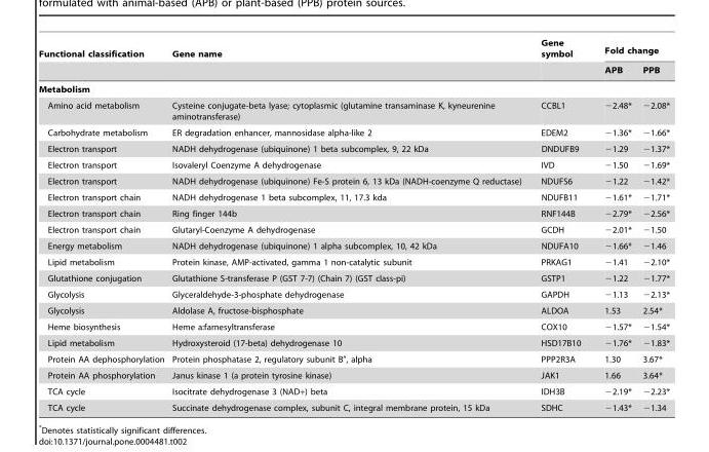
<table><thead><tr><td rowspan="2">Functional classification</td><td rowspan="2">Gene name</td><td rowspan="2">Gene symbol</td><td colspan="2">Fold change</td></tr><tr><td>APB</td><td>PPB</td></tr></thead><tbody><tr><td colspan="5">Metabolism</td></tr><tr><td>Amino acid metabolism</td><td>Cysteine conjugate-beta lyase; cytoplasmic (glutamine transaminase K, kyneurenine aminotransferase)</td><td>CCBL1</td><td>−2.48*</td><td>−2.08*</td></tr><tr><td>Carbohydrate metabolism</td><td>ER degradation enhancer, mannosidase alpha-like 2</td><td>EDEM2</td><td>−1.36*</td><td>−1.66*</td></tr><tr><td>Electron transport</td><td>NADH dehydrogenase (ubiquinone) 1 beta subcomplex, 9, 22 kDa</td><td>DNDUFB9</td><td>−1.29</td><td>−1.37*</td></tr><tr><td>Electron transport</td><td>Isovaleryl Coenzyme A dehydrogenase</td><td>IVD</td><td>−1.50</td><td>−1.69*</td></tr><tr><td>Electron transport</td><td>NADH dehydrogenase (ubiquinone) Fe-S protein 6, 13 kDa (NADH-coenzyme Q reductase)</td><td>NDUFS6</td><td>−1.22</td><td>−1.42*</td></tr><tr><td>Electron transport chain</td><td>NADH dehydrogenase 1 beta subcomplex, 11, 17.3 kda</td><td>NDUFB11</td><td>−1.61*</td><td>−1.71*</td></tr><tr><td>Electron transport chain</td><td>Ring finger 144b</td><td>RNF144B</td><td>−2.79*</td><td>−2.56*</td></tr><tr><td>Electron transport chain</td><td>Glutaryl-Coenzyme A dehydrogenase</td><td>GCDH</td><td>−2.01*</td><td>−1.50</td></tr><tr><td>Energy metabolism</td><td>NADH dehydrogenase (ubiquinone) 1 alpha subcomplex, 10, 42 kDa</td><td>NDUFA10</td><td>−1.66*</td><td>−1.46</td></tr><tr><td>Lipid metabolism</td><td>Protein kinase, AMP-activated, gamma 1 non-catalytic subunit</td><td>PRKAG1</td><td>−1.41</td><td>−2.10*</td></tr><tr><td>Glutathione conjugation</td><td>Glutathione S-transferase P (GST 7-7) (Chain 7) (GST class-pi)</td><td>GSTP1</td><td>−1.22</td><td>−1.77*</td></tr><tr><td>Glycolysis</td><td>Glyceraldehyde-3-phosphate dehydrogenase</td><td>GAPDH</td><td>−1.13</td><td>−2.13*</td></tr><tr><td>Glycolysis</td><td>Aldolase A, fructose-bisphosphate</td><td>ALDOA</td><td>1.53</td><td>2.54*</td></tr><tr><td>Heme biosynthesis</td><td>Heme a:farnesyltransferase</td><td>COX10</td><td>−1.57*</td><td>−1.54*</td></tr><tr><td>Lipid metabolism</td><td>Hydroxysteroid (17-beta) dehydrogenase 10</td><td>HSD17B10</td><td>−1.76*</td><td>−1.83*</td></tr><tr><td>Protein AA dephosphorylation</td><td>Protein phosphatase 2, regulatory subunit B″, alpha</td><td>PPP2R3A</td><td>1.30</td><td>3.67*</td></tr><tr><td>Protein AA phosphorylation</td><td>Janus kinase 1 (a protein tyrosine kinase)</td><td>JAK1</td><td>1.66</td><td>3.64*</td></tr><tr><td>TCA cycle</td><td>Isocitrate dehydrogenase 3 (NAD+) beta</td><td>IDH3B</td><td>−2.19*</td><td>−2.23*</td></tr><tr><td>TCA cycle</td><td>Succinate dehydrogenase complex, subunit C, integral membrane protein, 15 kDa</td><td>SDHC</td><td>−1.43*</td><td>−1.34</td></tr></tbody></table>